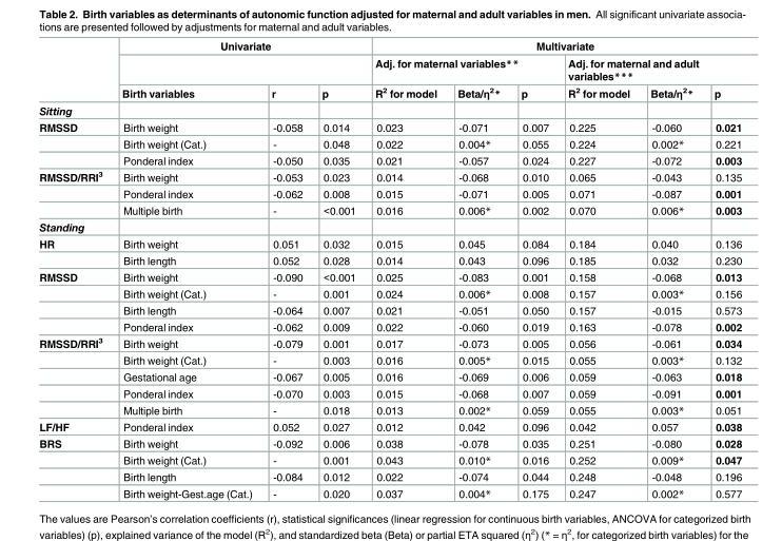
<table><thead><tr><td rowspan="3"></td><td colspan="3">Univariate</td><td colspan="6">Multivariate</td></tr><tr><td rowspan="2">Birth variables</td><td rowspan="2">r</td><td rowspan="2">p</td><td colspan="3">Adj. for maternal variables**</td><td colspan="3">Adj. for maternal and adult variables***</td></tr><tr><td>R<sup>2</sup> for model</td><td>Beta/η<sup>2</sup>*</td><td>p</td><td>R<sup>2</sup> for model</td><td>Beta/η<sup>2</sup>*</td><td>p</td></tr></thead><tbody><tr><td colspan="10">Sitting</td></tr><tr><td rowspan="3">RMSSD</td><td>Birth weight</td><td>-0.058</td><td>0.014</td><td>0.023</td><td>-0.071</td><td>0.007</td><td>0.225</td><td>-0.060</td><td>0.021</td></tr><tr><td>Birth weight (Cat.)</td><td>-</td><td>0.048</td><td>0.022</td><td>0.004*</td><td>0.055</td><td>0.224</td><td>0.002*</td><td>0.221</td></tr><tr><td>Ponderal index</td><td>-0.050</td><td>0.035</td><td>0.021</td><td>-0.057</td><td>0.024</td><td>0.227</td><td>-0.072</td><td>0.003</td></tr><tr><td rowspan="3">RMSSD/RRI<sup>3</sup></td><td>Birth weight</td><td>-0.053</td><td>0.023</td><td>0.014</td><td>-0.068</td><td>0.010</td><td>0.065</td><td>-0.043</td><td>0.135</td></tr><tr><td>Ponderal index</td><td>-0.062</td><td>0.008</td><td>0.015</td><td>-0.071</td><td>0.005</td><td>0.071</td><td>-0.087</td><td>0.001</td></tr><tr><td>Multiple birth</td><td>-</td><td>&lt;0.001</td><td>0.016</td><td>0.006*</td><td>0.002</td><td>0.070</td><td>0.006*</td><td>0.003</td></tr><tr><td colspan="10">Standing</td></tr><tr><td rowspan="2">HR</td><td>Birth weight</td><td>0.051</td><td>0.032</td><td>0.015</td><td>0.045</td><td>0.084</td><td>0.184</td><td>0.040</td><td>0.136</td></tr><tr><td>Birth length</td><td>0.052</td><td>0.028</td><td>0.014</td><td>0.043</td><td>0.096</td><td>0.185</td><td>0.032</td><td>0.230</td></tr><tr><td rowspan="4">RMSSD</td><td>Birth weight</td><td>-0.090</td><td>&lt;0.001</td><td>0.025</td><td>-0.083</td><td>0.001</td><td>0.158</td><td>-0.068</td><td>0.013</td></tr><tr><td>Birth weight (Cat.)</td><td>-</td><td>0.001</td><td>0.024</td><td>0.006*</td><td>0.008</td><td>0.157</td><td>0.003*</td><td>0.156</td></tr><tr><td>Birth length</td><td>-0.064</td><td>0.007</td><td>0.021</td><td>-0.051</td><td>0.050</td><td>0.157</td><td>-0.015</td><td>0.573</td></tr><tr><td>Ponderal index</td><td>-0.062</td><td>0.009</td><td>0.022</td><td>-0.060</td><td>0.019</td><td>0.163</td><td>-0.078</td><td>0.002</td></tr><tr><td rowspan="5">RMSSD/RRI<sup>3</sup></td><td>Birth weight</td><td>-0.079</td><td>0.001</td><td>0.017</td><td>-0.073</td><td>0.005</td><td>0.056</td><td>-0.061</td><td>0.034</td></tr><tr><td>Birth weight (Cat.)</td><td>-</td><td>0.003</td><td>0.016</td><td>0.005*</td><td>0.015</td><td>0.055</td><td>0.003*</td><td>0.132</td></tr><tr><td>Gestational age</td><td>-0.067</td><td>0.005</td><td>0.016</td><td>-0.069</td><td>0.006</td><td>0.059</td><td>-0.063</td><td>0.018</td></tr><tr><td>Ponderal index</td><td>-0.070</td><td>0.003</td><td>0.015</td><td>-0.068</td><td>0.007</td><td>0.059</td><td>-0.091</td><td>0.001</td></tr><tr><td>Multiple birth</td><td>-</td><td>0.018</td><td>0.013</td><td>0.002*</td><td>0.059</td><td>0.055</td><td>0.003*</td><td>0.051</td></tr><tr><td>LF/HF</td><td>Ponderal index</td><td>0.052</td><td>0.027</td><td>0.012</td><td>0.042</td><td>0.096</td><td>0.042</td><td>0.057</td><td>0.038</td></tr><tr><td rowspan="4">BRS</td><td>Birth weight</td><td>-0.092</td><td>0.006</td><td>0.038</td><td>-0.078</td><td>0.035</td><td>0.251</td><td>-0.080</td><td>0.028</td></tr><tr><td>Birth weight (Cat.)</td><td>-</td><td>0.001</td><td>0.043</td><td>0.010*</td><td>0.016</td><td>0.252</td><td>0.009*</td><td>0.047</td></tr><tr><td>Birth length</td><td>-0.084</td><td>0.012</td><td>0.022</td><td>-0.074</td><td>0.044</td><td>0.248</td><td>-0.048</td><td>0.196</td></tr><tr><td>Birth weight-Gest.age (Cat.)</td><td>-</td><td>0.020</td><td>0.037</td><td>0.004*</td><td>0.175</td><td>0.247</td><td>0.002*</td><td>0.577</td></tr></tbody></table>